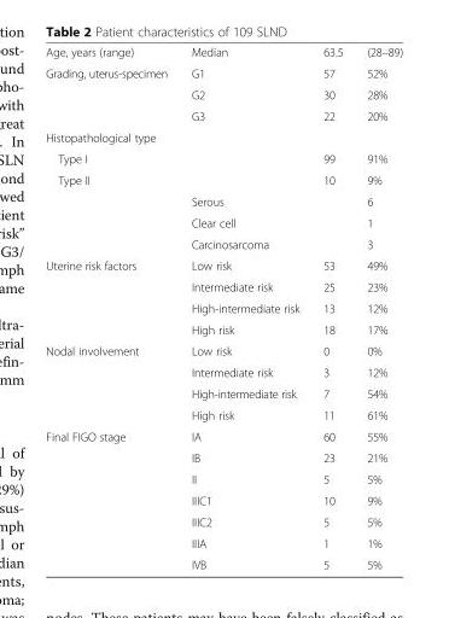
<table><tbody><tr><td>Age, years (range)</td><td>Median</td><td>63.5</td><td>(28–89)</td></tr><tr><td rowspan="3">Grading, uterus-specimen</td><td>G1</td><td>57</td><td>52%</td></tr><tr><td>G2</td><td>30</td><td>28%</td></tr><tr><td>G3</td><td>22</td><td>20%</td></tr><tr><td colspan="4">Histopathological type</td></tr><tr><td>Type I</td><td></td><td>99</td><td>91%</td></tr><tr><td rowspan="4">Type II</td><td></td><td>10</td><td>9%</td></tr><tr><td>Serous</td><td></td><td>6</td></tr><tr><td>Clear cell</td><td></td><td>1</td></tr><tr><td>Carcinosarcoma</td><td></td><td>3</td></tr><tr><td rowspan="4">Uterine risk factors</td><td>Low risk</td><td>53</td><td>49%</td></tr><tr><td>Intermediate risk</td><td>25</td><td>23%</td></tr><tr><td>High-intermediate risk</td><td>13</td><td>12%</td></tr><tr><td>High risk</td><td>18</td><td>17%</td></tr><tr><td rowspan="4">Nodal involvement</td><td>Low risk</td><td>0</td><td>0%</td></tr><tr><td>Intermediate risk</td><td>3</td><td>12%</td></tr><tr><td>High-intermediate risk</td><td>7</td><td>54%</td></tr><tr><td>High risk</td><td>11</td><td>61%</td></tr><tr><td rowspan="7">Final FIGO stage</td><td>IA</td><td>60</td><td>55%</td></tr><tr><td>IB</td><td>23</td><td>21%</td></tr><tr><td>II</td><td>5</td><td>5%</td></tr><tr><td>IIIC1</td><td>10</td><td>9%</td></tr><tr><td>IIIC2</td><td>5</td><td>5%</td></tr><tr><td>IIIA</td><td>1</td><td>1%</td></tr><tr><td>IVB</td><td>5</td><td>5%</td></tr></tbody></table>